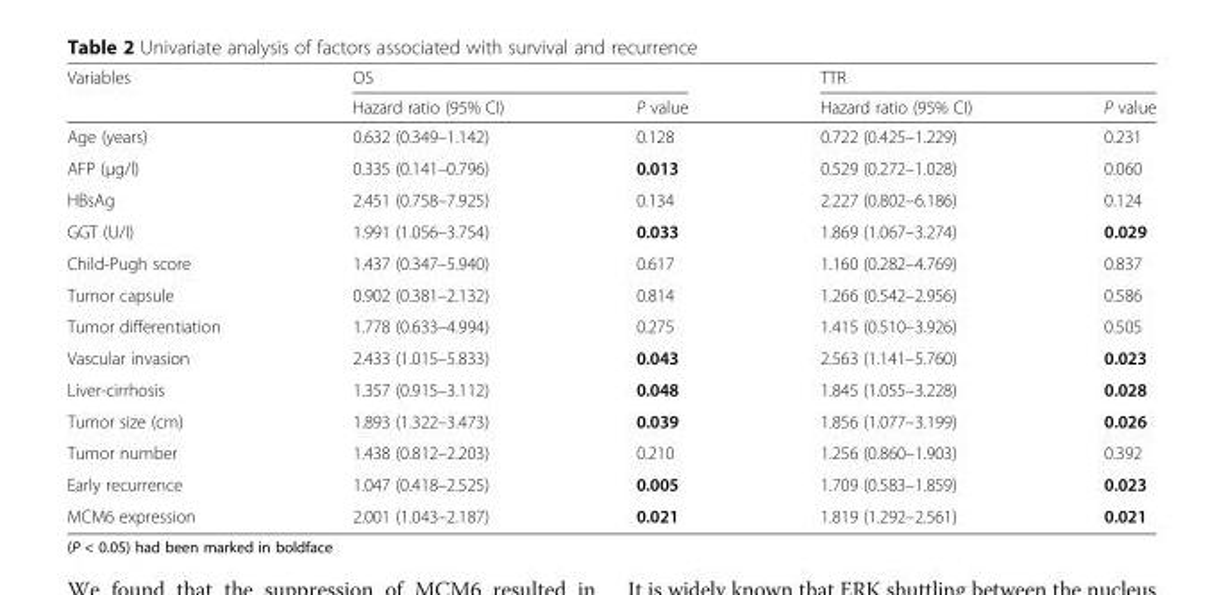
<table><thead><tr><td rowspan="2">Variables</td><td colspan="2">OS</td><td colspan="2">TTR</td></tr><tr><td>Hazard ratio (95% CI)</td><td>P value</td><td>Hazard ratio (95% CI)</td><td>P value</td></tr></thead><tbody><tr><td>Age (years)</td><td>0.632 (0.349–1.142)</td><td>0.128</td><td>0.722 (0.425–1.229)</td><td>0.231</td></tr><tr><td>AFP (μg/l)</td><td>0.335 (0.141–0.796)</td><td>0.013</td><td>0.529 (0.272–1.028)</td><td>0.060</td></tr><tr><td>HBsAg</td><td>2.451 (0.758–7.925)</td><td>0.134</td><td>2.227 (0.802–6.186)</td><td>0.124</td></tr><tr><td>GGT (U/I)</td><td>1.991 (1.056–3.754)</td><td>0.033</td><td>1.869 (1.067–3.274)</td><td>0.029</td></tr><tr><td>Child-Pugh score</td><td>1.437 (0.347–5.940)</td><td>0.617</td><td>1.160 (0.282–4.769)</td><td>0.837</td></tr><tr><td>Tumor capsule</td><td>0.902 (0.381–2.132)</td><td>0.814</td><td>1.266 (0.542–2.956)</td><td>0.586</td></tr><tr><td>Tumor differentiation</td><td>1.778 (0.633–4.994)</td><td>0.275</td><td>1.415 (0.510–3.926)</td><td>0.505</td></tr><tr><td>Vascular invasion</td><td>2.433 (1.015–5.833)</td><td>0.043</td><td>2.563 (1.141–5.760)</td><td>0.023</td></tr><tr><td>Liver-cirrhosis</td><td>1.357 (0.915–3.112)</td><td>0.048</td><td>1.845 (1.055–3.228)</td><td>0.028</td></tr><tr><td>Tumor size (cm)</td><td>1.893 (1.322–3.473)</td><td>0.039</td><td>1.856 (1.077–3.199)</td><td>0.026</td></tr><tr><td>Tumor number</td><td>1.438 (0.812–2.203)</td><td>0.210</td><td>1.256 (0.860–1.903)</td><td>0.392</td></tr><tr><td>Early recurrence</td><td>1.047 (0.418–2.525)</td><td>0.005</td><td>1.709 (0.583–1.859)</td><td>0.023</td></tr><tr><td>MCM6 expression</td><td>2.001 (1.043–2.187)</td><td>0.021</td><td>1.819 (1.292–2.561)</td><td>0.021</td></tr></tbody></table>